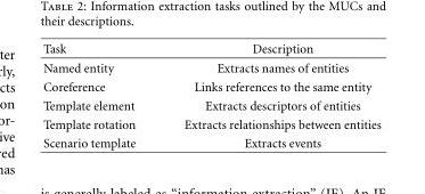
<table><thead><tr><td>Task</td><td>Description</td></tr></thead><tbody><tr><td>Named entity</td><td>Extracts names of entities</td></tr><tr><td>Coreference</td><td>Links references to the same entity</td></tr><tr><td>Template element</td><td>Extracts descriptors of entities</td></tr><tr><td>Template rotation</td><td>Extracts relationships between entities</td></tr><tr><td>Scenario template</td><td>Extracts events</td></tr></tbody></table>